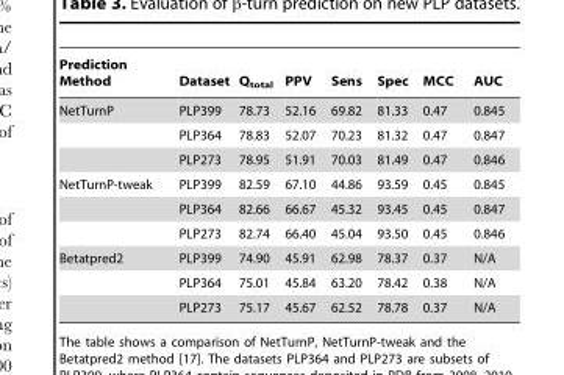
<table><thead><tr><td>Prediction Method</td><td>Dataset</td><td>Q<sub>total</sub></td><td>PPV</td><td>Sens</td><td>Spec</td><td>MCC</td><td>AUC</td></tr></thead><tbody><tr><td rowspan="3">NetTurnP</td><td>PLP399</td><td>78.73</td><td>52.16</td><td>69.82</td><td>81.33</td><td>0.47</td><td>0.845</td></tr><tr><td>PLP364</td><td>78.83</td><td>52.07</td><td>70.23</td><td>81.32</td><td>0.47</td><td>0.847</td></tr><tr><td>PLP273</td><td>78.95</td><td>51.91</td><td>70.03</td><td>81.49</td><td>0.47</td><td>0.846</td></tr><tr><td rowspan="3">NetTurnP-tweak</td><td>PLP399</td><td>82.59</td><td>67.10</td><td>44.86</td><td>93.59</td><td>0.45</td><td>0.845</td></tr><tr><td>PLP364</td><td>82.66</td><td>66.67</td><td>45.32</td><td>93.45</td><td>0.45</td><td>0.847</td></tr><tr><td>PLP273</td><td>82.74</td><td>66.40</td><td>45.04</td><td>93.50</td><td>0.45</td><td>0.846</td></tr><tr><td rowspan="3">Betatpred2</td><td>PLP399</td><td>74.90</td><td>45.91</td><td>62.98</td><td>78.37</td><td>0.37</td><td>N/A</td></tr><tr><td>PLP364</td><td>75.01</td><td>45.84</td><td>63.20</td><td>78.42</td><td>0.38</td><td>N/A</td></tr><tr><td>PLP273</td><td>75.17</td><td>45.67</td><td>62.52</td><td>78.78</td><td>0.37</td><td>N/A</td></tr></tbody></table>